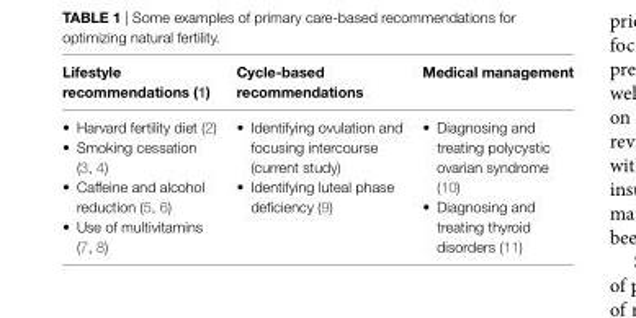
<table><thead><tr><td>lifestyle recommendations (1)</td><td>cycle-based recommendations</td><td>Medical management</td></tr></thead><tbody><tr><td>• Harvard fertility diet (2) • Smoking cessation (3, 4) • Caffeine and alcohol reduction (5, 6) • Use of multivitamins (7, 8)</td><td>• Identifying ovulation and focusing intercourse (current study) • Identifying luteal phase deficiency (9)</td><td>• Diagnosing and treating polycystic ovarian syndrome (10) • Diagnosing and treating thyroid disorders (11)</td></tr></tbody></table>